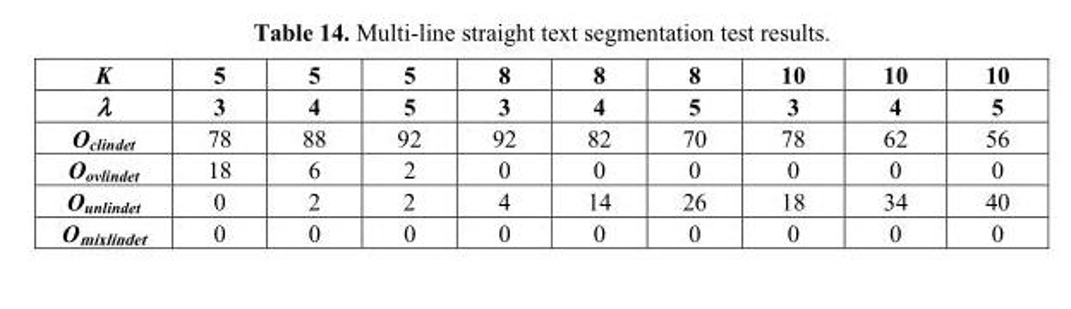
<table><thead><tr><td rowspan="2">K λ</td><td rowspan="2">5 3</td><td rowspan="2">5 4</td><td rowspan="2">5 5</td><td rowspan="2">8 3</td><td rowspan="2">8 4</td><td rowspan="2">8 5</td><td rowspan="2">10 3</td><td rowspan="2">10 4</td><td rowspan="2">10 5</td></tr><tr></tr></thead><tbody><tr><td>O<sub>clindet</sub></td><td>78</td><td>88</td><td>92</td><td>92</td><td>82</td><td>70</td><td>78</td><td>62</td><td>56</td></tr><tr><td>O<sub>ovlindet</sub></td><td>18</td><td>6</td><td>2</td><td>0</td><td>0</td><td>0</td><td>0</td><td>0</td><td>0</td></tr><tr><td>O<sub>unlindet</sub></td><td>0</td><td>2</td><td>2</td><td>4</td><td>14</td><td>26</td><td>18</td><td>34</td><td>40</td></tr><tr><td>O<sub>mixlindet</sub></td><td>0</td><td>0</td><td>0</td><td>0</td><td>0</td><td>0</td><td>0</td><td>0</td><td>0</td></tr></tbody></table>